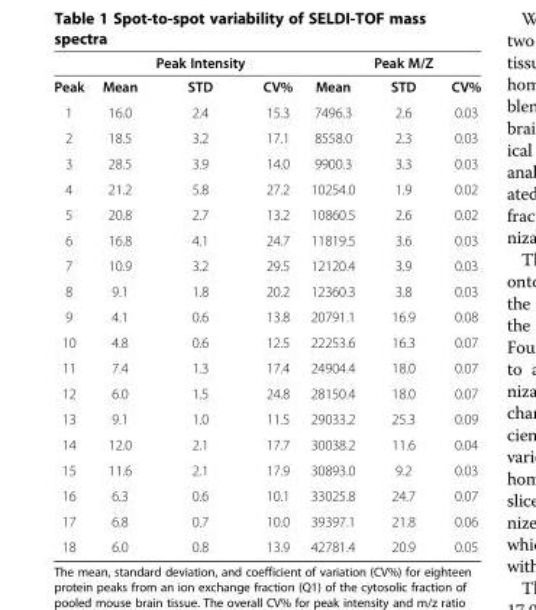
<table><thead><tr><td></td><td></td><td>Peak Intensity</td><td></td><td></td><td>Peak M/Z</td><td></td></tr></thead><tbody><tr><td>Peak</td><td>Mean</td><td>STD</td><td>CV%</td><td>Mean</td><td>STD</td><td>CV%</td></tr><tr><td>1</td><td>16.0</td><td>2.4</td><td>15.3</td><td>7496.3</td><td>2.6</td><td>0.03</td></tr><tr><td>2</td><td>18.5</td><td>3.2</td><td>17.1</td><td>8558.0</td><td>2.3</td><td>0.03</td></tr><tr><td>3</td><td>28.5</td><td>3.9</td><td>14.0</td><td>9900.3</td><td>3.3</td><td>0.03</td></tr><tr><td>4</td><td>21.2</td><td>5.8</td><td>27.2</td><td>10254.0</td><td>1.9</td><td>0.02</td></tr><tr><td>5</td><td>20.8</td><td>2.7</td><td>13.2</td><td>10860.5</td><td>2.6</td><td>0.02</td></tr><tr><td>6</td><td>16.8</td><td>4.1</td><td>24.7</td><td>11819.5</td><td>3.6</td><td>0.03</td></tr><tr><td>7</td><td>10.9</td><td>3.2</td><td>29.5</td><td>12120.4</td><td>3.9</td><td>0.03</td></tr><tr><td>8</td><td>9.1</td><td>1.8</td><td>20.2</td><td>12360.3</td><td>3.8</td><td>0.03</td></tr><tr><td>9</td><td>4.1</td><td>0.6</td><td>13.8</td><td>20791.1</td><td>16.9</td><td>0.08</td></tr><tr><td>10</td><td>4.8</td><td>0.6</td><td>12.5</td><td>22253.6</td><td>16.3</td><td>0.07</td></tr><tr><td>11</td><td>7.4</td><td>1.3</td><td>17.4</td><td>24904.4</td><td>18.0</td><td>0.07</td></tr><tr><td>12</td><td>6.0</td><td>1.5</td><td>24.8</td><td>28150.4</td><td>18.0</td><td>0.07</td></tr><tr><td>13</td><td>9.1</td><td>1.0</td><td>11.5</td><td>29033.2</td><td>25.3</td><td>0.09</td></tr><tr><td>14</td><td>12.0</td><td>2.1</td><td>17.7</td><td>30038.2</td><td>11.6</td><td>0.04</td></tr><tr><td>15</td><td>11.6</td><td>2.1</td><td>17.9</td><td>30893.0</td><td>9.2</td><td>0.03</td></tr><tr><td>16</td><td>6.3</td><td>0.6</td><td>10.1</td><td>33025.8</td><td>24.7</td><td>0.07</td></tr><tr><td>17</td><td>6.8</td><td>0.7</td><td>10.0</td><td>39397.1</td><td>21.8</td><td>0.06</td></tr><tr><td>18</td><td>6.0</td><td>0.8</td><td>13.9</td><td>42781.4</td><td>20.9</td><td>0.05</td></tr></tbody></table>